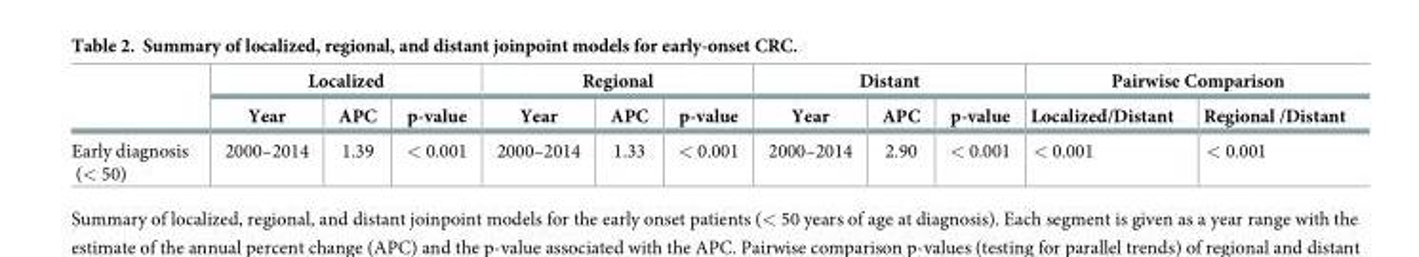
<table><thead><tr><td rowspan="2"></td><td colspan="3">Localized</td><td colspan="3">Regional</td><td colspan="3">Distant</td><td colspan="2">Pairwise Comparison</td></tr><tr><td>Year</td><td>APC</td><td>p-value</td><td>Year</td><td>APC</td><td>p-value</td><td>Year</td><td>APC</td><td>p-value</td><td>Localized/Distant</td><td>Regional /Distant</td></tr></thead><tbody><tr><td>Early diagnosis (&lt; 50)</td><td>2000–2014</td><td>1.39</td><td>&lt; 0.001</td><td>2000–2014</td><td>1.33</td><td>&lt; 0.001</td><td>2000–2014</td><td>2.90</td><td>&lt; 0.001</td><td>&lt; 0.001</td><td>&lt; 0.001</td></tr></tbody></table>